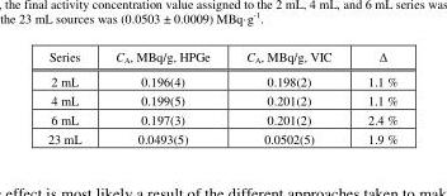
<table><thead><tr><td>Series</td><td>C<sub>A</sub>, MBq/g, HPGe</td><td>C<sub>A</sub>, MBq/g, VIC</td><td>Δ</td></tr></thead><tbody><tr><td>2 mL</td><td>0.196(4)</td><td>0.198(2)</td><td>1.1 %</td></tr><tr><td>4 mL</td><td>0.199(5)</td><td>0.201(2)</td><td>1.1 %</td></tr><tr><td>6 mL</td><td>0.197(3)</td><td>0.201(2)</td><td>2.4 %</td></tr><tr><td>23 mL</td><td>0.0493(5)</td><td>0.0502(5)</td><td>1.9 %</td></tr></tbody></table>